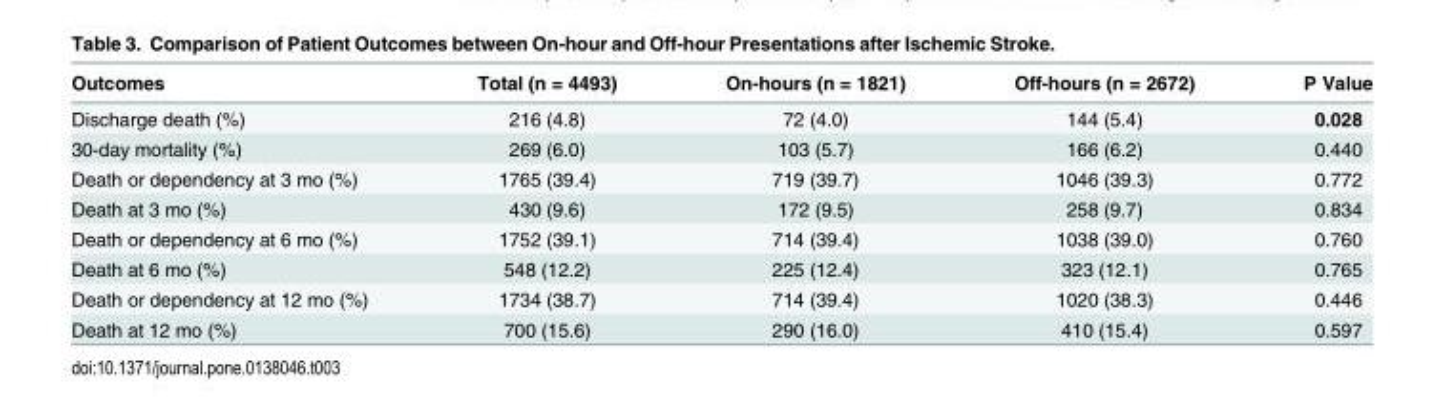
<table><thead><tr><td>Outcomes</td><td>Total (n = 4493)</td><td>On-hours (n = 1821)</td><td>Off-hours (n = 2672)</td><td>P Value</td></tr></thead><tbody><tr><td>Discharge death (%)</td><td>216 (4.8)</td><td>72 (4.0)</td><td>144 (5.4)</td><td>0.028</td></tr><tr><td>30-day mortality (%)</td><td>269 (6.0)</td><td>103 (5.7)</td><td>166 (6.2)</td><td>0.440</td></tr><tr><td>Death or dependency at 3 mo (%)</td><td>1765 (39.4)</td><td>719 (39.7)</td><td>1046 (39.3)</td><td>0.772</td></tr><tr><td>Death at 3 mo (%)</td><td>430 (9.6)</td><td>172 (9.5)</td><td>258 (9.7)</td><td>0.834</td></tr><tr><td>Death or dependency at 6 mo (%)</td><td>1752 (39.1)</td><td>714 (39.4)</td><td>1038 (39.0)</td><td>0.760</td></tr><tr><td>Death at 6 mo (%)</td><td>548 (12.2)</td><td>225 (12.4)</td><td>323 (12.1)</td><td>0.765</td></tr><tr><td>Death or dependency at 12 mo (%)</td><td>1734 (38.7)</td><td>714 (39.4)</td><td>1020 (38.3)</td><td>0.446</td></tr><tr><td>Death at 12 mo (%)</td><td>700 (15.6)</td><td>290 (16.0)</td><td>410 (15.4)</td><td>0.597</td></tr></tbody></table>